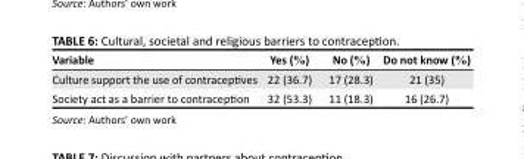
<table><thead><tr><td>Variable</td><td>Yes (%)</td><td>No (%)</td><td>Do not know (%)</td></tr></thead><tbody><tr><td>Culture support the use of contraceptives</td><td>22 (36.7)</td><td>17 (28.3)</td><td>21 (35)</td></tr><tr><td>Society act as a barrier to contraception</td><td>32 (53.3)</td><td>11 (18.3)</td><td>16 (26.7)</td></tr></tbody></table>